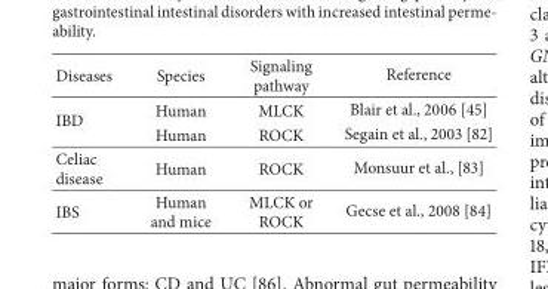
<table><thead><tr><td>Diseases</td><td>Species</td><td>Signaling pathway</td><td>Reference</td></tr></thead><tbody><tr><td rowspan="2">IBD</td><td>Human</td><td>MLCK</td><td>Blair et al., 2006 [45]</td></tr><tr><td>Human</td><td>ROCK</td><td>Segain et al., 2003 [82]</td></tr><tr><td>Celiac disease</td><td>Human</td><td>ROCK</td><td>Monsuur et al., [83]</td></tr><tr><td>IBS</td><td>Human and mice</td><td>MLCK or ROCK</td><td>Gecse et al., 2008 [84]</td></tr></tbody></table>